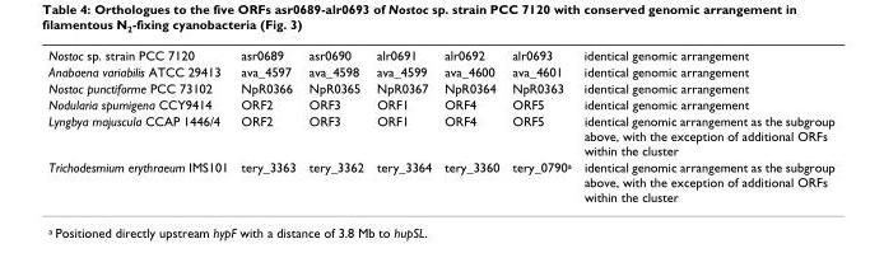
<table><tbody><tr><td>Nostoc sp. strain PCC 7120</td><td>asr0689</td><td>asr0690</td><td>alr0691</td><td>alr0692</td><td>alr0693</td><td>identical genomic arrangement</td></tr><tr><td>Anabaena variabilis ATCC 29413</td><td>ava_4597</td><td>ava_4598</td><td>ava_4599</td><td>ava_4600</td><td>ava_4601</td><td>identical genomic arrangement</td></tr><tr><td>Nostoc punctiforme PCC 73102</td><td>NpR0366</td><td>NpR0365</td><td>NpR0367</td><td>NpR0364</td><td>NpR0363</td><td>identical genomic arrangement</td></tr><tr><td>Nodularia spumigena CCY9414</td><td>ORF2</td><td>ORF3</td><td>ORF1</td><td>ORF4</td><td>ORF5</td><td>identical genomic arrangement</td></tr><tr><td>Lyngbya majuscula CCAP 1446/4</td><td>ORF2</td><td>ORF3</td><td>ORF1</td><td>ORF4</td><td>ORF5</td><td>identical genomic arrangement as the subgroup above, with the exception of additional ORFs within the cluster</td></tr><tr><td>Trichodesmium erythraeum IMS101</td><td>tery_3363</td><td>tery_3362</td><td>tery_3364</td><td>tery_3360</td><td>tery_0790<sup>a</sup></td><td>identical genomic arrangement as the subgroup above, with the exception of additional ORFs within the cluster</td></tr></tbody></table>